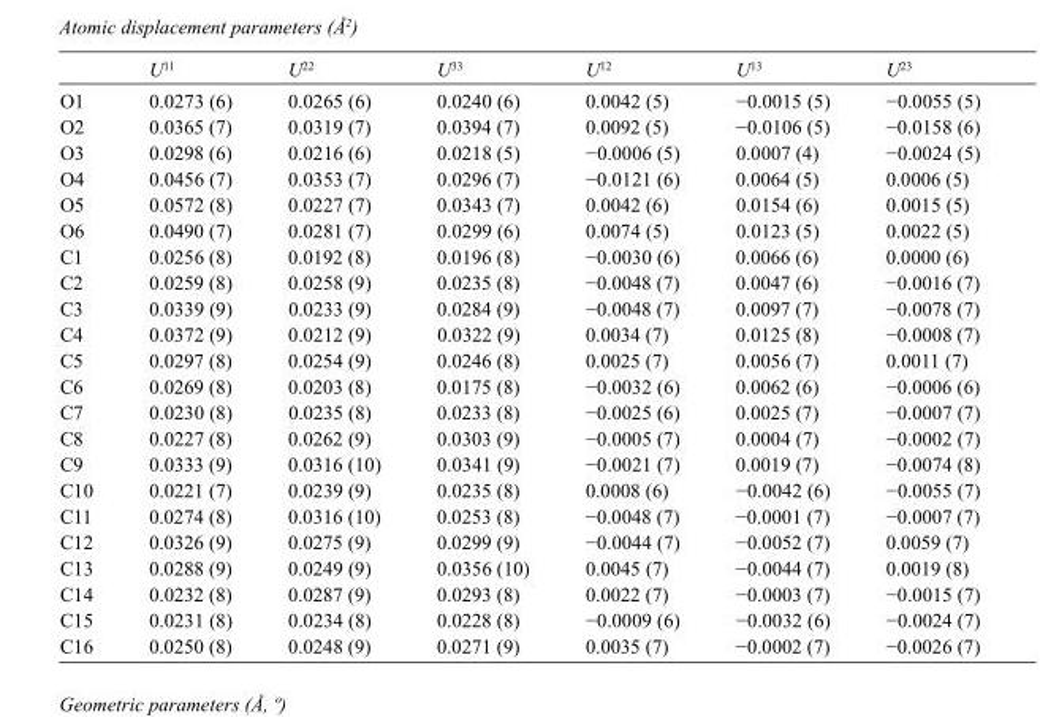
<table><thead><tr><td></td><td>U<sup>11</sup></td><td>U<sup>22</sup></td><td>U<sup>33</sup></td><td>U<sup>12</sup></td><td>U<sup>13</sup></td><td>U<sup>23</sup></td></tr></thead><tbody><tr><td>O1</td><td>0.0273 (6)</td><td>0.0265 (6)</td><td>0.0240 (6)</td><td>0.0042 (5)</td><td>−0.0015 (5)</td><td>−0.0055 (5)</td></tr><tr><td>O2</td><td>0.0365 (7)</td><td>0.0319 (7)</td><td>0.0394 (7)</td><td>0.0092 (5)</td><td>−0.0106 (5)</td><td>−0.0158 (6)</td></tr><tr><td>O3</td><td>0.0298 (6)</td><td>0.0216 (6)</td><td>0.0218 (5)</td><td>−0.0006 (5)</td><td>0.0007 (4)</td><td>−0.0024 (5)</td></tr><tr><td>O4</td><td>0.0456 (7)</td><td>0.0353 (7)</td><td>0.0296 (7)</td><td>−0.0121 (6)</td><td>0.0064 (5)</td><td>0.0006 (5)</td></tr><tr><td>O5</td><td>0.0572 (8)</td><td>0.0227 (7)</td><td>0.0343 (7)</td><td>0.0042 (6)</td><td>0.0154 (6)</td><td>0.0015 (5)</td></tr><tr><td>O6</td><td>0.0490 (7)</td><td>0.0281 (7)</td><td>0.0299 (6)</td><td>0.0074 (5)</td><td>0.0123 (5)</td><td>0.0022 (5)</td></tr><tr><td>C1</td><td>0.0256 (8)</td><td>0.0192 (8)</td><td>0.0196 (8)</td><td>−0.0030 (6)</td><td>0.0066 (6)</td><td>0.0000 (6)</td></tr><tr><td>C2</td><td>0.0259 (8)</td><td>0.0258 (9)</td><td>0.0235 (8)</td><td>−0.0048 (7)</td><td>0.0047 (6)</td><td>−0.0016 (7)</td></tr><tr><td>C3</td><td>0.0339 (9)</td><td>0.0233 (9)</td><td>0.0284 (9)</td><td>−0.0048 (7)</td><td>0.0097 (7)</td><td>−0.0078 (7)</td></tr><tr><td>C4</td><td>0.0372 (9)</td><td>0.0212 (9)</td><td>0.0322 (9)</td><td>0.0034 (7)</td><td>0.0125 (8)</td><td>−0.0008 (7)</td></tr><tr><td>C5</td><td>0.0297 (8)</td><td>0.0254 (9)</td><td>0.0246 (8)</td><td>0.0025 (7)</td><td>0.0056 (7)</td><td>0.0011 (7)</td></tr><tr><td>C6</td><td>0.0269 (8)</td><td>0.0203 (8)</td><td>0.0175 (8)</td><td>−0.0032 (6)</td><td>0.0062 (6)</td><td>−0.0006 (6)</td></tr><tr><td>C7</td><td>0.0230 (8)</td><td>0.0235 (8)</td><td>0.0233 (8)</td><td>−0.0025 (6)</td><td>0.0025 (7)</td><td>−0.0007 (7)</td></tr><tr><td>C8</td><td>0.0227 (8)</td><td>0.0262 (9)</td><td>0.0303 (9)</td><td>−0.0005 (7)</td><td>0.0004 (7)</td><td>−0.0002 (7)</td></tr><tr><td>C9</td><td>0.0333 (9)</td><td>0.0316 (10)</td><td>0.0341 (9)</td><td>−0.0021 (7)</td><td>0.0019 (7)</td><td>−0.0074 (8)</td></tr><tr><td>C10</td><td>0.0221 (7)</td><td>0.0239 (9)</td><td>0.0235 (8)</td><td>0.0008 (6)</td><td>−0.0042 (6)</td><td>−0.0055 (7)</td></tr><tr><td>C11</td><td>0.0274 (8)</td><td>0.0316 (10)</td><td>0.0253 (8)</td><td>−0.0048 (7)</td><td>−0.0001 (7)</td><td>−0.0007 (7)</td></tr><tr><td>C12</td><td>0.0326 (9)</td><td>0.0275 (9)</td><td>0.0299 (9)</td><td>−0.0044 (7)</td><td>−0.0052 (7)</td><td>0.0059 (7)</td></tr><tr><td>C13</td><td>0.0288 (9)</td><td>0.0249 (9)</td><td>0.0356 (10)</td><td>0.0045 (7)</td><td>−0.0044 (7)</td><td>0.0019 (8)</td></tr><tr><td>C14</td><td>0.0232 (8)</td><td>0.0287 (9)</td><td>0.0293 (8)</td><td>0.0022 (7)</td><td>−0.0003 (7)</td><td>−0.0015 (7)</td></tr><tr><td>C15</td><td>0.0231 (8)</td><td>0.0234 (8)</td><td>0.0228 (8)</td><td>−0.0009 (6)</td><td>−0.0032 (6)</td><td>−0.0024 (7)</td></tr><tr><td>C16</td><td>0.0250 (8)</td><td>0.0248 (9)</td><td>0.0271 (9)</td><td>0.0035 (7)</td><td>−0.0002 (7)</td><td>−0.0026 (7)</td></tr></tbody></table>